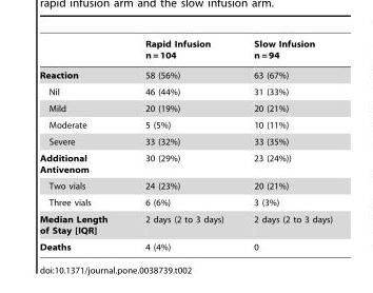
<table><thead><tr><td></td><td>Rapid Infusion n = 104</td><td>Slow Infusion n = 94</td></tr></thead><tbody><tr><td>Reaction</td><td>58 (56%)</td><td>63 (67%)</td></tr><tr><td>Nil</td><td>46 (44%)</td><td>31 (33%)</td></tr><tr><td>Mild</td><td>20 (19%)</td><td>20 (21%)</td></tr><tr><td>Moderate</td><td>5 (5%)</td><td>10 (11%)</td></tr><tr><td>Severe</td><td>33 (32%)</td><td>33 (35%)</td></tr><tr><td>Additional Antivenom</td><td>30 (29%)</td><td>23 (24%))</td></tr><tr><td>Two vials</td><td>24 (23%)</td><td>20 (21%)</td></tr><tr><td>Three vials</td><td>6 (6%)</td><td>3 (3%)</td></tr><tr><td>Median Length of Stay [IQR]</td><td>2 days (2 to 3 days)</td><td>2 days (2 to 3 days)</td></tr><tr><td>Deaths</td><td>4 (4%)</td><td>0</td></tr></tbody></table>